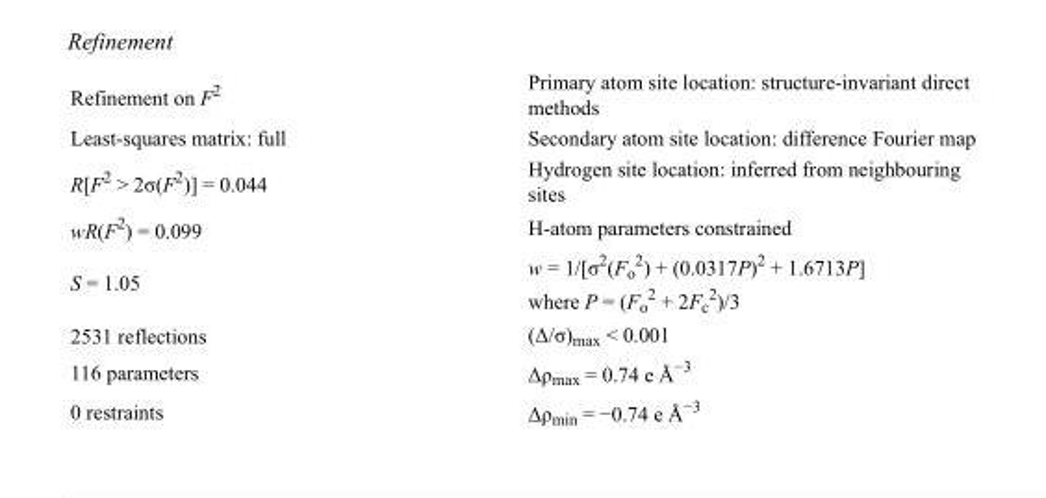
<table><tbody><tr><td>Refinement on F<sup>2</sup></td><td>Primary atom site location: structure-invariant direct methods</td></tr><tr><td>Least-squares matrix: full</td><td>Secondary atom site location: difference Fourier map</td></tr><tr><td>R[F<sup>2</sup> &gt; 2σ(F<sup>2</sup>)] = 0.044</td><td>Hydrogen site location: inferred from neighbouring sites</td></tr><tr><td>wR(F<sup>2</sup>) = 0.099</td><td>H-atom parameters constrained</td></tr><tr><td>S = 1.05</td><td>w = 1/[σ<sup>2</sup>(F<sub>o</sub> <sup>2</sup>) + (0.0317P)<sup>2</sup> + 1.6713P] where P = (F<sub>o</sub> <sup>2</sup> + 2F<sub>c</sub> <sup>2</sup>)/3</td></tr><tr><td>2531 reflections</td><td>(Δ/σ)<sub>max</sub> &lt; 0.001</td></tr><tr><td>116 parameters</td><td>Δρ<sub>max</sub> = 0.74 e Å<sup>−3</sup></td></tr><tr><td>0 restraints</td><td>Δρ<sub>min</sub> = −0.74 e Å<sup>−3</sup></td></tr></tbody></table>